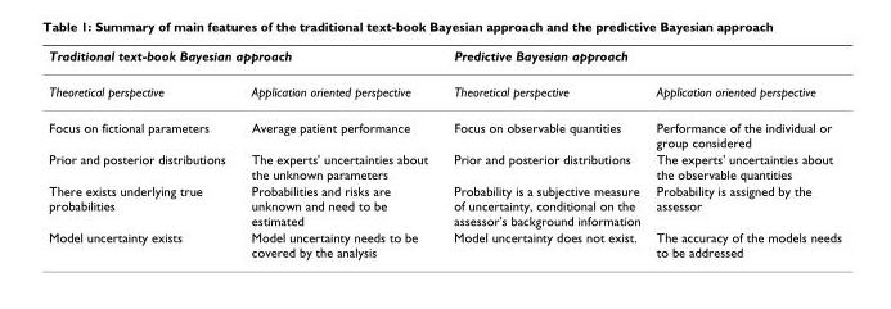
<table><thead><tr><td colspan="2">Traditional text-book Bayesian approach</td><td colspan="2">Predictive Bayesian approach</td></tr><tr><td>Theoretical perspective</td><td>Application oriented perspective</td><td>Theoretical perspective</td><td>Application oriented perspective</td></tr></thead><tbody><tr><td>Focus on fictional parameters</td><td>Average patient performance</td><td>Focus on observable quantities</td><td>Performance of the individual or group considered</td></tr><tr><td>Prior and posterior distributions</td><td>The experts&#x27; uncertainties about the unknown parameters</td><td>Prior and posterior distributions</td><td>The experts&#x27; uncertainties about the observable quantities</td></tr><tr><td>There exists underlying true probabilities</td><td>Probabilities and risks are unknown and need to be estimated</td><td>Probability is a subjective measure of uncertainty, conditional on the assessor&#x27;s background information</td><td>Probability is assigned by the assessor</td></tr><tr><td>Model uncertainty exists</td><td>Model uncertainty needs to be covered by the analysis</td><td>Model uncertainty does not exist.</td><td>The accuracy of the models needs to be addressed</td></tr></tbody></table>